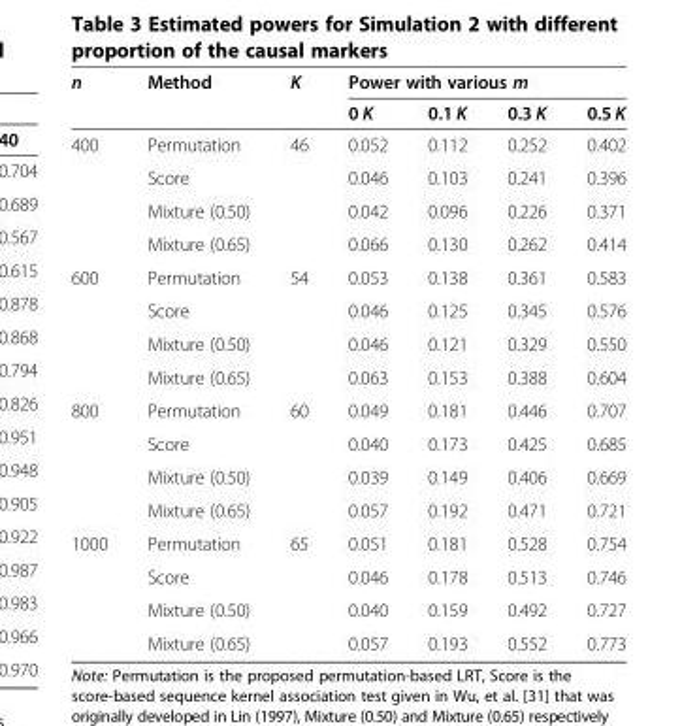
<table><thead><tr><td rowspan="2">n</td><td rowspan="2">Method</td><td rowspan="2">K</td><td colspan="4">Power with various m</td></tr><tr><td>0 K</td><td>0.1 K</td><td>0.3 K</td><td>0.5 K</td></tr></thead><tbody><tr><td rowspan="4">400</td><td>Permutation</td><td>46</td><td>0.052</td><td>0.112</td><td>0.252</td><td>0.402</td></tr><tr><td>Score</td><td></td><td>0.046</td><td>0.103</td><td>0.241</td><td>0.396</td></tr><tr><td>Mixture (0.50)</td><td></td><td>0.042</td><td>0.096</td><td>0.226</td><td>0.371</td></tr><tr><td>Mixture (0.65)</td><td></td><td>0.066</td><td>0.130</td><td>0.262</td><td>0.414</td></tr><tr><td rowspan="4">600</td><td>Permutation</td><td>54</td><td>0.053</td><td>0.138</td><td>0.361</td><td>0.583</td></tr><tr><td>Score</td><td></td><td>0.046</td><td>0.125</td><td>0.345</td><td>0.576</td></tr><tr><td>Mixture (0.50)</td><td></td><td>0.046</td><td>0.121</td><td>0.329</td><td>0.550</td></tr><tr><td>Mixture (0.65)</td><td></td><td>0.063</td><td>0.153</td><td>0.388</td><td>0.604</td></tr><tr><td rowspan="4">800</td><td>Permutation</td><td>60</td><td>0.049</td><td>0.181</td><td>0.446</td><td>0.707</td></tr><tr><td>Score</td><td></td><td>0.040</td><td>0.173</td><td>0.425</td><td>0.685</td></tr><tr><td>Mixture (0.50)</td><td></td><td>0.039</td><td>0.149</td><td>0.406</td><td>0.669</td></tr><tr><td>Mixture (0.65)</td><td></td><td>0.057</td><td>0.192</td><td>0.471</td><td>0.721</td></tr><tr><td rowspan="4">1000</td><td>Permutation</td><td>65</td><td>0.051</td><td>0.181</td><td>0.528</td><td>0.754</td></tr><tr><td>Score</td><td></td><td>0.046</td><td>0.178</td><td>0.513</td><td>0.746</td></tr><tr><td>Mixture (0.50)</td><td></td><td>0.040</td><td>0.159</td><td>0.492</td><td>0.727</td></tr><tr><td>Mixture (0.65)</td><td></td><td>0.057</td><td>0.193</td><td>0.552</td><td>0.773</td></tr></tbody></table>